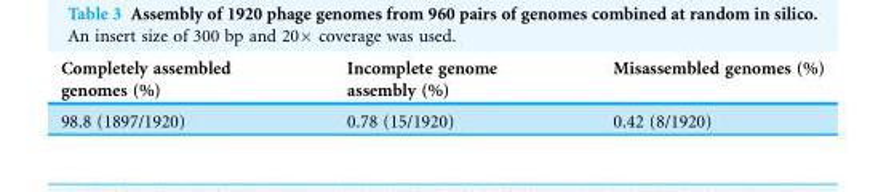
<table><thead><tr><td>Completely assembled genomes (%)</td><td>Incomplete genome assembly (%)</td><td>Misassembled genomes (%)</td></tr></thead><tbody><tr><td>98.8 (1897/1920)</td><td>0.78 (15/1920)</td><td>0.42 (8/1920)</td></tr></tbody></table>